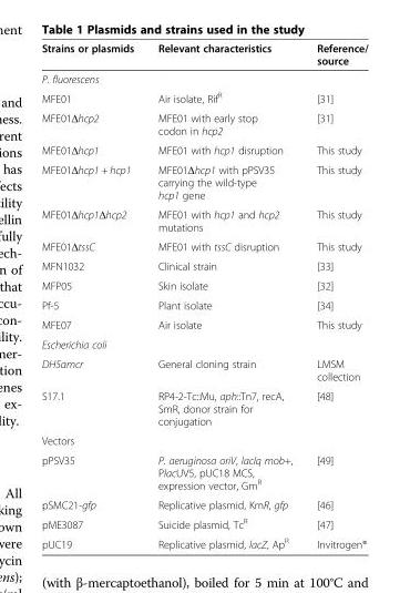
<table><thead><tr><td>Strains or plasmids</td><td>Relevant characteristics</td><td>Reference/ source</td></tr></thead><tbody><tr><td colspan="3">P. fluorescens</td></tr><tr><td>MFE01</td><td>Air isolate, Rif<sup>R</sup></td><td>[31]</td></tr><tr><td>MFE01Δhcp2</td><td>MFE01 with early stop codon in hcp2</td><td>[31]</td></tr><tr><td>MFE01Δhcp1</td><td>MFE01 with hcp1 disruption</td><td>This study</td></tr><tr><td>MFE01Δhcp1 + hcp1</td><td>MFE01Δhcp1 with pPSV35 carrying the wild-type hcp1 gene</td><td>This study</td></tr><tr><td>MFE01Δhcp1Δhcp2</td><td>MFE01 with hcp1 and hcp2 mutations</td><td>This study</td></tr><tr><td>MFE01ΔtssC</td><td>MFE01 with tssC disruption</td><td>This study</td></tr><tr><td>MFN1032</td><td>Clinical strain</td><td>[33]</td></tr><tr><td>MFP05</td><td>Skin isolate</td><td>[32]</td></tr><tr><td>Pf-5</td><td>Plant isolate</td><td>[34]</td></tr><tr><td>MFE07</td><td>Air isolate</td><td>This study</td></tr><tr><td colspan="3">Escherichia coli</td></tr><tr><td>DH5αmcr</td><td>General cloning strain</td><td>LMSM collection</td></tr><tr><td>S17.1</td><td>RP4-2-Tc::Mu, aph::Tn7, recA, SmR, donor strain for conjugation</td><td>[48]</td></tr><tr><td colspan="3">Vectors</td></tr><tr><td>pPSV35</td><td>P. aeruginosa oriV, lacIq mob+, PlacUV5, pUC18 MCS, expression vector, Gm<sup>R</sup></td><td>[49]</td></tr><tr><td>pSMC21-gfp</td><td>Replicative plasmid, KmR, gfp</td><td>[46]</td></tr><tr><td>pME3087</td><td>Suicide plasmid, Tc<sup>R</sup></td><td>[47]</td></tr><tr><td>pUC19</td><td>Replicative plasmid, lacZ, Ap<sup>R</sup></td><td>Invitrogen®</td></tr></tbody></table>